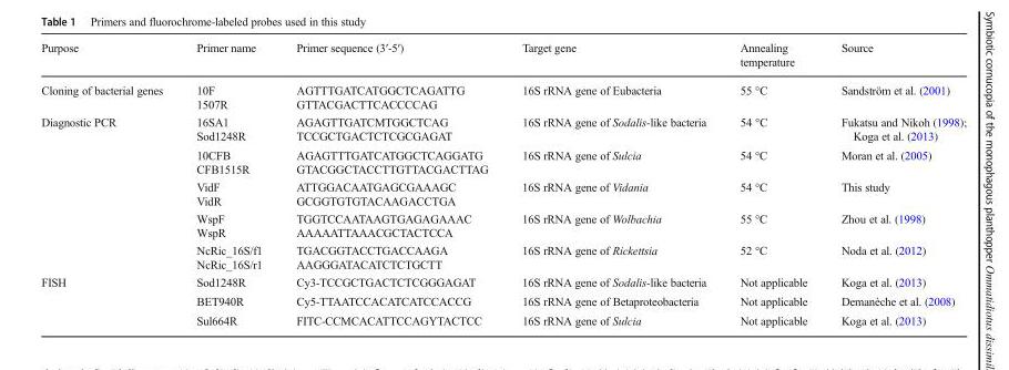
<table><thead><tr><td>Purpose</td><td>Primer name</td><td>Primer sequence (3′-5′)</td><td>Target gene</td><td>Annealing temperature</td><td>Source</td></tr></thead><tbody><tr><td rowspan="2">Cloning of bacterial genes</td><td>10F</td><td>AGTTTGATCATGGCTCAGATTG</td><td rowspan="2">16S rRNA gene of Eubacteria</td><td rowspan="2">55 °C</td><td rowspan="2">Sandström et al. (2001)</td></tr><tr><td>1507R</td><td>GTTACGACTTCACCCCAG</td></tr><tr><td rowspan="10">Diagnostic PCR</td><td>16SA1</td><td>AGAGTTGATCMTGGCTCAG</td><td rowspan="2">16S rRNA gene of Sodalis-like bacteria</td><td rowspan="2">54 °C</td><td rowspan="2">Fukatsu and Nikoh (1998); Koga et al. (2013)</td></tr><tr><td>Sod1248R</td><td>TCCGCTGACTCTCGCGAGAT</td></tr><tr><td>10CFB</td><td>AGAGTTTGATCATGGCTCAGGATG</td><td rowspan="2">16S rRNA gene of Sulcia</td><td rowspan="2">54 °C</td><td rowspan="2">Moran et al. (2005)</td></tr><tr><td>CFB1515R</td><td>GTACGGCTACCTTGTTACGACTTAG</td></tr><tr><td>VidF</td><td>ATTGGACAATGAGCGAAAGC</td><td rowspan="2">16S rRNA gene of Vidania</td><td rowspan="2">54 °C</td><td rowspan="2">This study</td></tr><tr><td>VidR</td><td>GCGGTGTGTACAAGACCTGA</td></tr><tr><td>WspF</td><td>TGGTCCAATAAGTGAGAGAAAC</td><td rowspan="2">16S rRNA gene of Wolbachia</td><td rowspan="2">55 °C</td><td rowspan="2">Zhou et al. (1998)</td></tr><tr><td>WspR</td><td>AAAAATTAAACGCTACTCCA</td></tr><tr><td>NcRic_16S/f1</td><td>TGACGGTACCTGACCAAGA</td><td rowspan="2">16S rRNA gene of Rickettsia</td><td rowspan="2">52 °C</td><td rowspan="2">Noda et al. (2012)</td></tr><tr><td>NcRic_16S/r1</td><td>AAGGGATACATCTCTGCTT</td></tr><tr><td rowspan="3">FISH</td><td>Sod1248R</td><td>Cy3-TCCGCTGACTCTCGGGAGAT</td><td>16S rRNA gene of Sodalis-like bacteria</td><td>Not applicable</td><td>Koga et al. (2013)</td></tr><tr><td>BET940R</td><td>Cy5-TTAATCCACATCATCCACCG</td><td>16S rRNA gene of Betaproteobacteria</td><td>Not applicable</td><td>Demanèche et al. (2008)</td></tr><tr><td>Sul664R</td><td>FITC-CCMCACATTCCAGYTACTCC</td><td>16S rRNA gene of Sulcia</td><td>Not applicable</td><td>Koga et al. (2013)</td></tr></tbody></table>